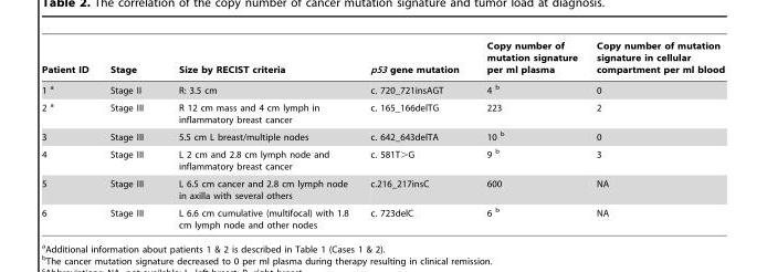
<table><thead><tr><td>Patient ID</td><td>Stage</td><td>Size by RECIST criteria</td><td>p53 gene mutation</td><td>Copy number of mutation signature per ml plasma</td><td>Copy number of mutation signature in cellular compartment per ml blood</td></tr></thead><tbody><tr><td>1 a</td><td>Stage II</td><td>R: 3.5 cm</td><td>c. 720_721insAGT</td><td>4 b</td><td>0</td></tr><tr><td>2 a</td><td>Stage III</td><td>R 12 cm mass and 4 cm lymph in inflammatory breast cancer</td><td>c. 165_166delTG</td><td>223</td><td>2</td></tr><tr><td>3</td><td>Stage III</td><td>5.5 cm L breast/multiple nodes</td><td>c. 642_643delTA</td><td>10 b</td><td>0</td></tr><tr><td>4</td><td>Stage III</td><td>L 2 cm and 2.8 cm lymph node and inflammatory breast cancer</td><td>c. 581T&gt;G</td><td>9 b</td><td>3</td></tr><tr><td>5</td><td>Stage III</td><td>L 6.5 cm cancer and 2.8 cm lymph node in axilla with several others</td><td>c.216_217insC</td><td>600</td><td>NA</td></tr><tr><td>6</td><td>Stage III</td><td>L 6.6 cm cumulative (multifocal) with 1.8 cm lymph node and other nodes</td><td>c. 723delC</td><td>6 b</td><td>NA</td></tr></tbody></table>